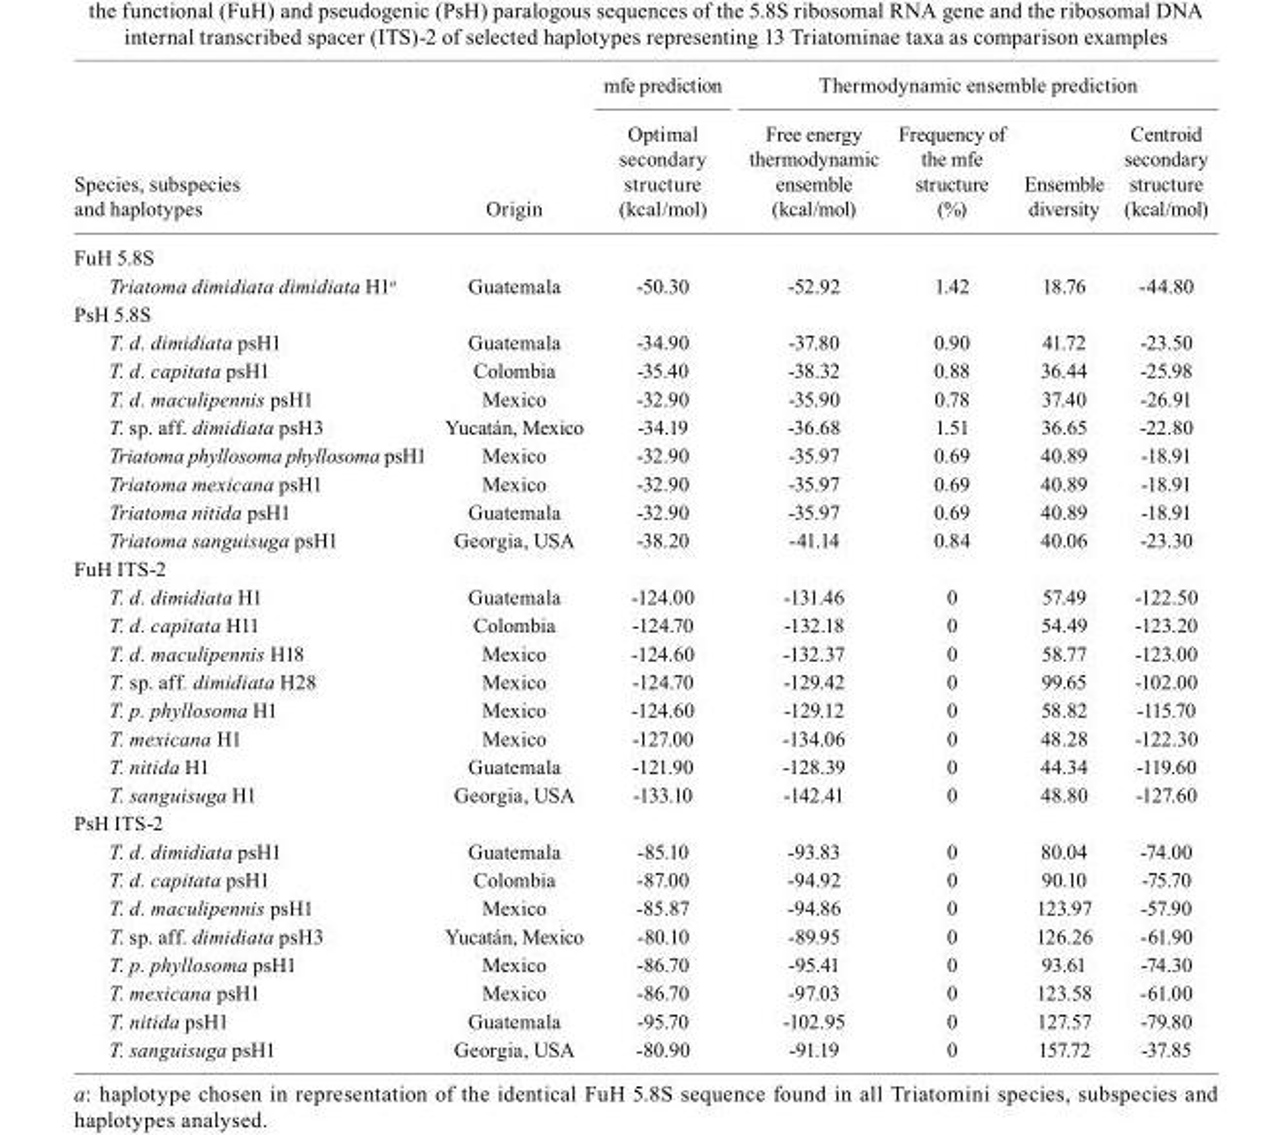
<table><thead><tr><td rowspan="2">Species, subspecies and haplotypes</td><td rowspan="2">Origin</td><td rowspan="2">mfe prediction Optimal secondary structure (kcal/mol)</td><td colspan="4">Thermodynamic ensemble prediction</td></tr><tr><td>Free energy thermodynamic ensemble (kcal/mol)</td><td>Frequency of the mfe structure (%)</td><td>Ensemble diversity</td><td>Centroid secondary structure (kcal/mol)</td></tr></thead><tbody><tr><td colspan="7">FuH 5.8S</td></tr><tr><td>Triatoma dimidiata dimidiata H1<sup>a</sup></td><td>Guatemala</td><td>-50.30</td><td>-52.92</td><td>1.42</td><td>18.76</td><td>-44.80</td></tr><tr><td colspan="7">PsH 5.8S</td></tr><tr><td>T. d. dimidiata psH1</td><td>Guatemala</td><td>-34.90</td><td>-37.80</td><td>0.90</td><td>41.72</td><td>-23.50</td></tr><tr><td>T. d. capitata psH1</td><td>Colombia</td><td>-35.40</td><td>-38.32</td><td>0.88</td><td>36.44</td><td>-25.98</td></tr><tr><td>T. d. maculipennis psH1</td><td>Mexico</td><td>-32.90</td><td>-35.90</td><td>0.78</td><td>37.40</td><td>-26.91</td></tr><tr><td>T. sp. aff. dimidiata psH3</td><td>Yucatán, Mexico</td><td>-34.19</td><td>-36.68</td><td>1.51</td><td>36.65</td><td>-22.80</td></tr><tr><td>Triatoma phyllosoma phyllosoma psH1</td><td>Mexico</td><td>-32.90</td><td>-35.97</td><td>0.69</td><td>40.89</td><td>-18.91</td></tr><tr><td>Triatoma mexicana psH1</td><td>Mexico</td><td>-32.90</td><td>-35.97</td><td>0.69</td><td>40.89</td><td>-18.91</td></tr><tr><td>Triatoma nitida psH1</td><td>Guatemala</td><td>-32.90</td><td>-35.97</td><td>0.69</td><td>40.89</td><td>-18.91</td></tr><tr><td>Triatoma sanguisuga psH1</td><td>Georgia, USA</td><td>-38.20</td><td>-41.14</td><td>0.84</td><td>40.06</td><td>-23.30</td></tr><tr><td colspan="7">FuH ITS-2</td></tr><tr><td>T. d. dimidiata H1</td><td>Guatemala</td><td>-124.00</td><td>-131.46</td><td>0</td><td>57.49</td><td>-122.50</td></tr><tr><td>T. d. capitata H11</td><td>Colombia</td><td>-124.70</td><td>-132.18</td><td>0</td><td>54.49</td><td>-123.20</td></tr><tr><td>T. d. maculipennis H18</td><td>Mexico</td><td>-124.60</td><td>-132.37</td><td>0</td><td>58.77</td><td>-123.00</td></tr><tr><td>T. sp. aff. dimidiata H28</td><td>Mexico</td><td>-124.70</td><td>-129.42</td><td>0</td><td>99.65</td><td>-102.00</td></tr><tr><td>T. p. phyllosoma H1</td><td>Mexico</td><td>-124.60</td><td>-129.12</td><td>0</td><td>58.82</td><td>-115.70</td></tr><tr><td>T. mexicana H1</td><td>Mexico</td><td>-127.00</td><td>-134.06</td><td>0</td><td>48.28</td><td>-122.30</td></tr><tr><td>T. nitida H1</td><td>Guatemala</td><td>-121.90</td><td>-128.39</td><td>0</td><td>44.34</td><td>-119.60</td></tr><tr><td>T. sanguisuga H1</td><td>Georgia, USA</td><td>-133.10</td><td>-142.41</td><td>0</td><td>48.80</td><td>-127.60</td></tr><tr><td colspan="7">PsH ITS-2</td></tr><tr><td>T. d. dimidiata psH1</td><td>Guatemala</td><td>-85.10</td><td>-93.83</td><td>0</td><td>80.04</td><td>-74.00</td></tr><tr><td>T. d. capitata psH1</td><td>Colombia</td><td>-87.00</td><td>-94.92</td><td>0</td><td>90.10</td><td>-75.70</td></tr><tr><td>T. d. maculipennis psH1</td><td>Mexico</td><td>-85.87</td><td>-94.86</td><td>0</td><td>123.97</td><td>-57.90</td></tr><tr><td>T. sp. aff. dimidiata psH3</td><td>Yucatán, Mexico</td><td>-80.10</td><td>-89.95</td><td>0</td><td>126.26</td><td>-61.90</td></tr><tr><td>T. p. phyllosoma psH1</td><td>Mexico</td><td>-86.70</td><td>-95.41</td><td>0</td><td>93.61</td><td>-74.30</td></tr><tr><td>T. mexicana psH1</td><td>Mexico</td><td>-86.70</td><td>-97.03</td><td>0</td><td>123.58</td><td>-61.00</td></tr><tr><td>T. nitida psH1</td><td>Guatemala</td><td>-95.70</td><td>-102.95</td><td>0</td><td>127.57</td><td>-79.80</td></tr><tr><td>T. sanguisuga psH1</td><td>Georgia, USA</td><td>-80.90</td><td>-91.19</td><td>0</td><td>157.72</td><td>-37.85</td></tr></tbody></table>